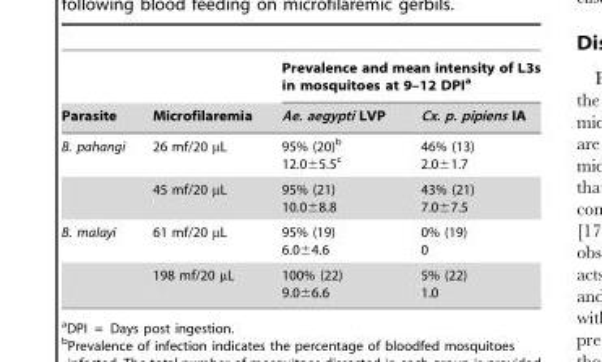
<table><thead><tr><td rowspan="2">Parasite</td><td rowspan="2">Microfilaremia</td><td colspan="2">Prevalence and mean intensity of L3s in mosquitoes at 9–12 DPI<sup>a</sup></td></tr><tr><td>Ae. aegypti LVP</td><td>Cx. p. pipiens IA</td></tr></thead><tbody><tr><td rowspan="2">B. pahangi</td><td>26 mf/20 µL</td><td>95% (20)<sup>b</sup> 12.0±5.5<sup>c</sup></td><td>46% (13) 2.0±1.7</td></tr><tr><td>45 mf/20 µL</td><td>95% (21) 10.0±8.8</td><td>43% (21) 7.0±7.5</td></tr><tr><td rowspan="2">B. malayi</td><td>61 mf/20 µL</td><td>95% (19) 6.0±4.6</td><td>0% (19) 0</td></tr><tr><td>198 mf/20 µL</td><td>100% (22) 9.0±6.6</td><td>5% (22) 1.0</td></tr></tbody></table>